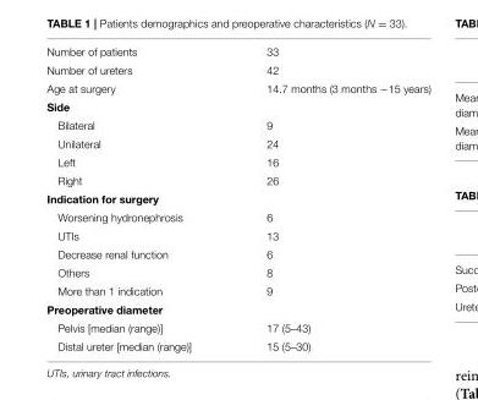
<table><tbody><tr><td>Number of patients</td><td>33</td></tr><tr><td>Number of ureters</td><td>42</td></tr><tr><td>Age at surgery</td><td>14.7 months (3 months −15 years)</td></tr><tr><td colspan="2">Side</td></tr><tr><td>Bilateral</td><td>9</td></tr><tr><td>Unilateral</td><td>24</td></tr><tr><td>Left</td><td>16</td></tr><tr><td>Right</td><td>26</td></tr><tr><td colspan="2">Indication for surgery</td></tr><tr><td>Worsening hydronephrosis</td><td>6</td></tr><tr><td>UTIs</td><td>13</td></tr><tr><td>Decrease renal function</td><td>6</td></tr><tr><td>Others</td><td>8</td></tr><tr><td>More than 1 indication</td><td>9</td></tr><tr><td colspan="2">Preoperative diameter</td></tr><tr><td>Pelvis [median (range)]</td><td>17 (5–43)</td></tr><tr><td>Distal ureter [median (range)]</td><td>15 (5–30)</td></tr></tbody></table>